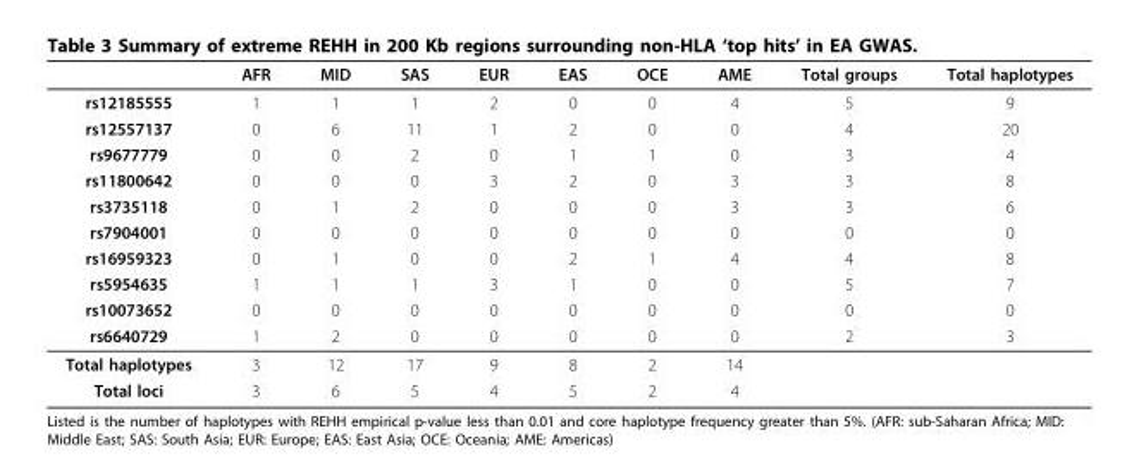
<table><thead><tr><td></td><td>AFR</td><td>MID</td><td>SAS</td><td>EUR</td><td>EAS</td><td>OCE</td><td>AME</td><td>Total groups</td><td>Total haplotypes</td></tr></thead><tbody><tr><td>rs12185555</td><td>1</td><td>1</td><td>1</td><td>2</td><td>0</td><td>0</td><td>4</td><td>5</td><td>9</td></tr><tr><td>rs12557137</td><td>0</td><td>6</td><td>11</td><td>1</td><td>2</td><td>0</td><td>0</td><td>4</td><td>20</td></tr><tr><td>rs9677779</td><td>0</td><td>0</td><td>2</td><td>0</td><td>1</td><td>1</td><td>0</td><td>3</td><td>4</td></tr><tr><td>rs11800642</td><td>0</td><td>0</td><td>0</td><td>3</td><td>2</td><td>0</td><td>3</td><td>3</td><td>8</td></tr><tr><td>rs3735118</td><td>0</td><td>1</td><td>2</td><td>0</td><td>0</td><td>0</td><td>3</td><td>3</td><td>6</td></tr><tr><td>rs7904001</td><td>0</td><td>0</td><td>0</td><td>0</td><td>0</td><td>0</td><td>0</td><td>0</td><td>0</td></tr><tr><td>rs16959323</td><td>0</td><td>1</td><td>0</td><td>0</td><td>2</td><td>1</td><td>4</td><td>4</td><td>8</td></tr><tr><td>rs5954635</td><td>1</td><td>1</td><td>1</td><td>3</td><td>1</td><td>0</td><td>0</td><td>5</td><td>7</td></tr><tr><td>rs10073652</td><td>0</td><td>0</td><td>0</td><td>0</td><td>0</td><td>0</td><td>0</td><td>0</td><td>0</td></tr><tr><td>rs6640729</td><td>1</td><td>2</td><td>0</td><td>0</td><td>0</td><td>0</td><td>0</td><td>2</td><td>3</td></tr><tr><td>Total haplotypes</td><td>3</td><td>12</td><td>17</td><td>9</td><td>8</td><td>2</td><td>14</td><td></td><td></td></tr><tr><td>Total loci</td><td>3</td><td>6</td><td>5</td><td>4</td><td>5</td><td>2</td><td>4</td><td></td><td></td></tr></tbody></table>